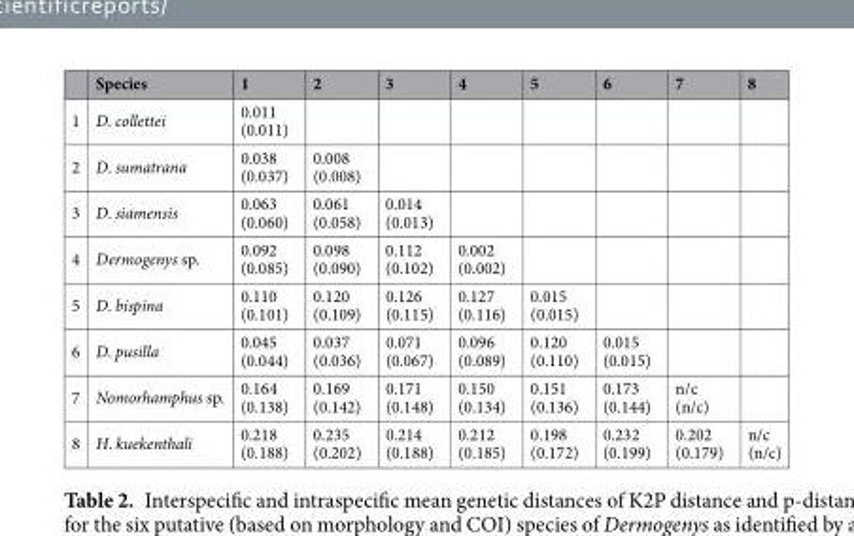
<table><thead><tr><td></td><td>Species</td><td>1</td><td>2</td><td>3</td><td>4</td><td>5</td><td>6</td><td>7</td><td>8</td></tr></thead><tbody><tr><td>1</td><td>D. collettei</td><td>0.011 (0.011)</td><td></td><td></td><td></td><td></td><td></td><td></td><td></td></tr><tr><td>2</td><td>D. sumatrana</td><td>0.038 (0.037)</td><td>0.008 (0.008)</td><td></td><td></td><td></td><td></td><td></td><td></td></tr><tr><td>3</td><td>D. siamensis</td><td>0.063 (0.060)</td><td>0.061 (0.058)</td><td>0.014 (0.013)</td><td></td><td></td><td></td><td></td><td></td></tr><tr><td>4</td><td>Dermogenys sp.</td><td>0.092 (0.085)</td><td>0.098 (0.090)</td><td>0.112 (0.102)</td><td>0.002 (0.002)</td><td></td><td></td><td></td><td></td></tr><tr><td>5</td><td>D. bispina</td><td>0.110 (0.101)</td><td>0.120 (0.109)</td><td>0.126 (0.115)</td><td>0.127 (0.116)</td><td>0.015 (0.015)</td><td></td><td></td><td></td></tr><tr><td>6</td><td>D. pusilla</td><td>0.045 (0.044)</td><td>0.037 (0.036)</td><td>0.071 (0.067)</td><td>0.096 (0.089)</td><td>0.120 (0.110)</td><td>0.015 (0.015)</td><td></td><td></td></tr><tr><td>7</td><td>Nomorhamphus sp.</td><td>0.164 (0.138)</td><td>0.169 (0.142)</td><td>0.171 (0.148)</td><td>0.150 (0.134)</td><td>0.151 (0.136)</td><td>0.173 (0.144)</td><td>n/c (n/c)</td><td></td></tr><tr><td>8</td><td>H. kuekenthali</td><td>0.218 (0.188)</td><td>0.235 (0.202)</td><td>0.214 (0.188)</td><td>0.212 (0.185)</td><td>0.198 (0.172)</td><td>0.232 (0.199)</td><td>0.202 (0.179)</td><td>n/c (n/c)</td></tr></tbody></table>